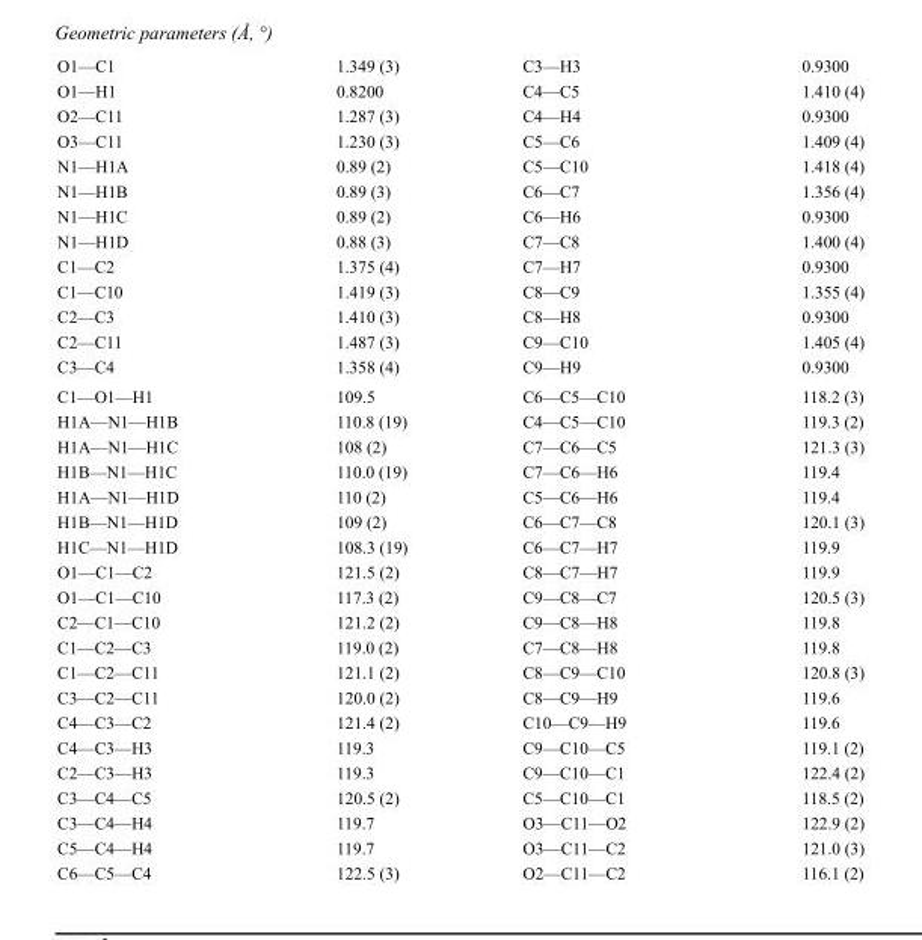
<table><tbody><tr><td>O1—C1</td><td>1.349 (3)</td><td>C3—H3</td><td>0.9300</td></tr><tr><td>O1—H1</td><td>0.8200</td><td>C4—C5</td><td>1.410 (4)</td></tr><tr><td>O2—C11</td><td>1.287 (3)</td><td>C4—H4</td><td>0.9300</td></tr><tr><td>O3—C11</td><td>1.230 (3)</td><td>C5—C6</td><td>1.409 (4)</td></tr><tr><td>N1—H1A</td><td>0.89 (2)</td><td>C5—C10</td><td>1.418 (4)</td></tr><tr><td>N1—H1B</td><td>0.89 (3)</td><td>C6—C7</td><td>1.356 (4)</td></tr><tr><td>N1—H1C</td><td>0.89 (2)</td><td>C6—H6</td><td>0.9300</td></tr><tr><td>N1—H1D</td><td>0.88 (3)</td><td>C7—C8</td><td>1.400 (4)</td></tr><tr><td>C1—C2</td><td>1.375 (4)</td><td>C7—H7</td><td>0.9300</td></tr><tr><td>C1—C10</td><td>1.419 (3)</td><td>C8—C9</td><td>1.355 (4)</td></tr><tr><td>C2—C3</td><td>1.410 (3)</td><td>C8—H8</td><td>0.9300</td></tr><tr><td>C2—C11</td><td>1.487 (3)</td><td>C9—C10</td><td>1.405 (4)</td></tr><tr><td>C3—C4</td><td>1.358 (4)</td><td>C9—H9</td><td>0.9300</td></tr><tr><td>C1—O1—H1</td><td>109.5</td><td>C6—C5—C10</td><td>118.2 (3)</td></tr><tr><td>H1A—N1—H1B</td><td>110.8 (19)</td><td>C4—C5—C10</td><td>119.3 (2)</td></tr><tr><td>H1A—N1—H1C</td><td>108 (2)</td><td>C7—C6—C5</td><td>121.3 (3)</td></tr><tr><td>H1B—N1—H1C</td><td>110.0 (19)</td><td>C7—C6—H6</td><td>119.4</td></tr><tr><td>H1A—N1—H1D</td><td>110 (2)</td><td>C5—C6—H6</td><td>119.4</td></tr><tr><td>H1B—N1—H1D</td><td>109 (2)</td><td>C6—C7—C8</td><td>120.1 (3)</td></tr><tr><td>H1C—N1—H1D</td><td>108.3 (19)</td><td>C6—C7—H7</td><td>119.9</td></tr><tr><td>O1—C1—C2</td><td>121.5 (2)</td><td>C8—C7—H7</td><td>119.9</td></tr><tr><td>O1—C1—C10</td><td>117.3 (2)</td><td>C9—C8—C7</td><td>120.5 (3)</td></tr><tr><td>C2—C1—C10</td><td>121.2 (2)</td><td>C9—C8—H8</td><td>119.8</td></tr><tr><td>C1—C2—C3</td><td>119.0 (2)</td><td>C7—C8—H8</td><td>119.8</td></tr><tr><td>C1—C2—C11</td><td>121.1 (2)</td><td>C8—C9—C10</td><td>120.8 (3)</td></tr><tr><td>C3—C2—C11</td><td>120.0 (2)</td><td>C8—C9—H9</td><td>119.6</td></tr><tr><td>C4—C3—C2</td><td>121.4 (2)</td><td>C10—C9—H9</td><td>119.6</td></tr><tr><td>C4—C3—H3</td><td>119.3</td><td>C9—C10—C5</td><td>119.1 (2)</td></tr><tr><td>C2—C3—H3</td><td>119.3</td><td>C9—C10—C1</td><td>122.4 (2)</td></tr><tr><td>C3—C4—C5</td><td>120.5 (2)</td><td>C5—C10—C1</td><td>118.5 (2)</td></tr><tr><td>C3—C4—H4</td><td>119.7</td><td>O3—C11—O2</td><td>122.9 (2)</td></tr><tr><td>C5—C4—H4</td><td>119.7</td><td>O3—C11—C2</td><td>121.0 (3)</td></tr><tr><td>C6—C5—C4</td><td>122.5 (3)</td><td>O2—C11—C2</td><td>116.1 (2)</td></tr></tbody></table>